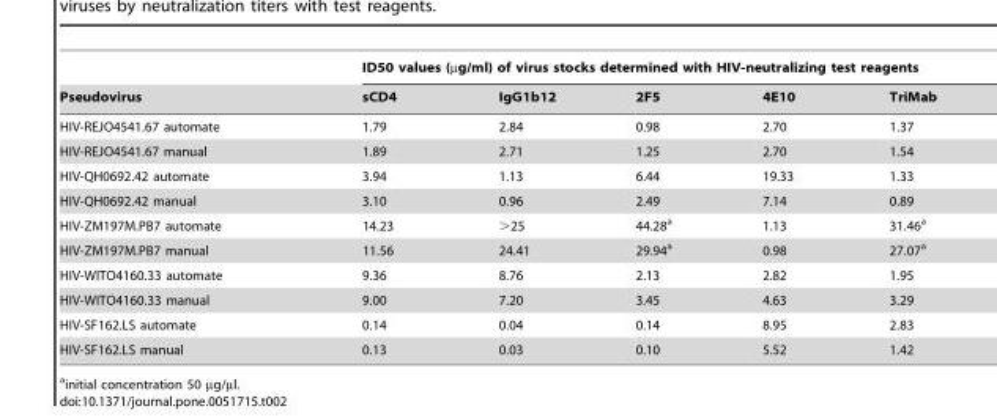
<table><thead><tr><td rowspan="2">Pseudovirus</td><td colspan="5">ID50 values (µg/ml) of virus stocks determined with HIV-neutralizing test reagents</td></tr><tr><td>sCD4</td><td>IgG1b12</td><td>2F5</td><td>4E10</td><td>TriMab</td></tr></thead><tbody><tr><td>HIV-REJO4541.67 automate</td><td>1.79</td><td>2.84</td><td>0.98</td><td>2.70</td><td>1.37</td></tr><tr><td>HIV-REJO4541.67 manual</td><td>1.89</td><td>2.71</td><td>1.25</td><td>2.70</td><td>1.54</td></tr><tr><td>HIV-QH0692.42 automate</td><td>3.94</td><td>1.13</td><td>6.44</td><td>19.33</td><td>1.33</td></tr><tr><td>HIV-QH0692.42 manual</td><td>3.10</td><td>0.96</td><td>2.49</td><td>7.14</td><td>0.89</td></tr><tr><td>HIV-ZM197M.PB7 automate</td><td>14.23</td><td>&gt;25</td><td>44.28<sup>a</sup></td><td>1.13</td><td>31.46<sup>a</sup></td></tr><tr><td>HIV-ZM197M.PB7 manual</td><td>11.56</td><td>24.41</td><td>29.94<sup>a</sup></td><td>0.98</td><td>27.07<sup>a</sup></td></tr><tr><td>HIV-WITO4160.33 automate</td><td>9.36</td><td>8.76</td><td>2.13</td><td>2.82</td><td>1.95</td></tr><tr><td>HIV-WITO4160.33 manual</td><td>9.00</td><td>7.20</td><td>3.45</td><td>4.63</td><td>3.29</td></tr><tr><td>HIV-SF162.LS automate</td><td>0.14</td><td>0.04</td><td>0.14</td><td>8.95</td><td>2.83</td></tr><tr><td>HIV-SF162.LS manual</td><td>0.13</td><td>0.03</td><td>0.10</td><td>5.52</td><td>1.42</td></tr></tbody></table>